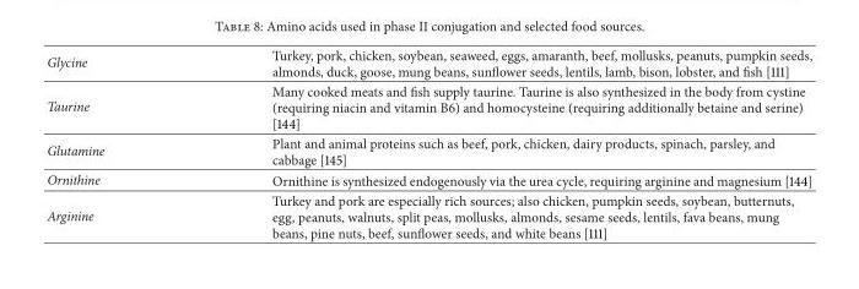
<table><tbody><tr><td>Glycine</td><td>Turkey, pork, chicken, soybean, seaweed, eggs, amaranth, beef, mollusks, peanuts, pumpkin seeds, almonds, duck, goose, mung beans, sunflower seeds, lentils, lamb, bison, lobster, and fish [111]</td></tr><tr><td>Taurine</td><td>Many cooked meats and fish supply taurine. Taurine is also synthesized in the body from cystine (requiring niacin and vitamin B6) and homocysteine (requiring additionally betaine and serine) [144]</td></tr><tr><td>Glutamine</td><td>Plant and animal proteins such as beef, pork, chicken, dairy products, spinach, parsley, and cabbage [145]</td></tr><tr><td>Ornithine</td><td>Ornithine is synthesized endogenously via the urea cycle, requiring arginine and magnesium [144]</td></tr><tr><td>Arginine</td><td>Turkey and pork are especially rich sources; also chicken, pumpkin seeds, soybean, butternuts, egg, peanuts, walnuts, split peas, mollusks, almonds, sesame seeds, lentils, fava beans, mung beans, pine nuts, beef, sunflower seeds, and white beans [111]</td></tr></tbody></table>